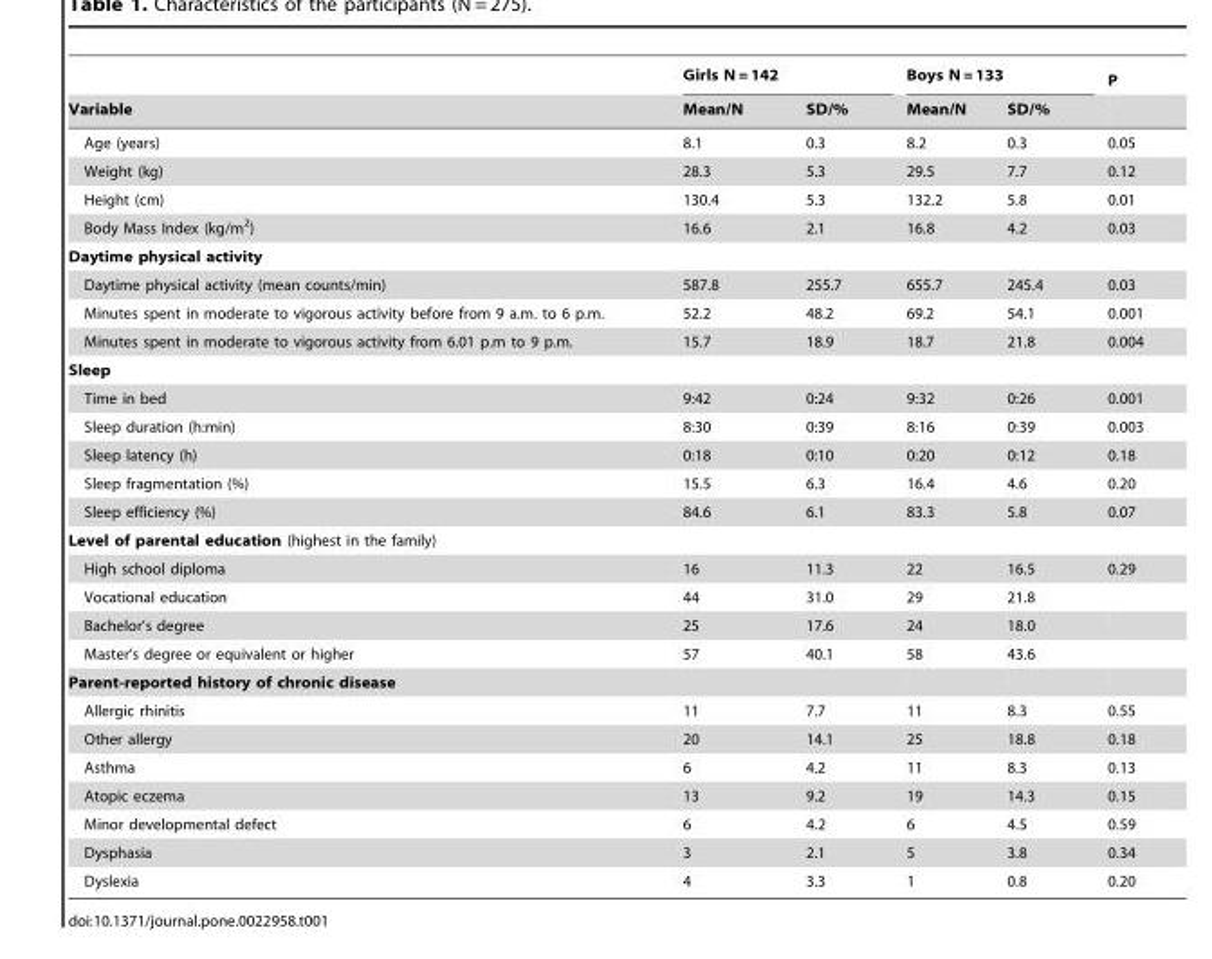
<table><thead><tr><td rowspan="2">Variable</td><td colspan="2">Girls N = 142</td><td colspan="2">Boys N = 133</td><td rowspan="2">P</td></tr><tr><td>Mean/N</td><td>SD/%</td><td>Mean/N</td><td>SD/%</td></tr></thead><tbody><tr><td>Age (years)</td><td>8.1</td><td>0.3</td><td>8.2</td><td>0.3</td><td>0.05</td></tr><tr><td>Weight (kg)</td><td>28.3</td><td>5.3</td><td>29.5</td><td>7.7</td><td>0.12</td></tr><tr><td>Height (cm)</td><td>130.4</td><td>5.3</td><td>132.2</td><td>5.8</td><td>0.01</td></tr><tr><td>Body Mass Index (kg/m<sup>2</sup>)</td><td>16.6</td><td>2.1</td><td>16.8</td><td>4.2</td><td>0.03</td></tr><tr><td colspan="6">Daytime physical activity</td></tr><tr><td>Daytime physical activity (mean counts/min)</td><td>587.8</td><td>255.7</td><td>655.7</td><td>245.4</td><td>0.03</td></tr><tr><td>Minutes spent in moderate to vigorous activity before from 9 a.m. to 6 p.m.</td><td>52.2</td><td>48.2</td><td>69.2</td><td>54.1</td><td>0.001</td></tr><tr><td>Minutes spent in moderate to vigorous activity from 6.01 p.m to 9 p.m.</td><td>15.7</td><td>18.9</td><td>18.7</td><td>21.8</td><td>0.004</td></tr><tr><td colspan="6">Sleep</td></tr><tr><td>Time in bed</td><td>9:42</td><td>0:24</td><td>9:32</td><td>0:26</td><td>0.001</td></tr><tr><td>Sleep duration (h:min)</td><td>8:30</td><td>0:39</td><td>8:16</td><td>0:39</td><td>0.003</td></tr><tr><td>Sleep latency (h)</td><td>0:18</td><td>0:10</td><td>0:20</td><td>0:12</td><td>0.18</td></tr><tr><td>Sleep fragmentation (%)</td><td>15.5</td><td>6.3</td><td>16.4</td><td>4.6</td><td>0.20</td></tr><tr><td>Sleep efficiency (%)</td><td>84.6</td><td>6.1</td><td>83.3</td><td>5.8</td><td>0.07</td></tr><tr><td colspan="6">Level of parental education (highest in the family)</td></tr><tr><td>High school diploma</td><td>16</td><td>11.3</td><td>22</td><td>16.5</td><td>0.29</td></tr><tr><td>Vocational education</td><td>44</td><td>31.0</td><td>29</td><td>21.8</td><td></td></tr><tr><td>Bachelor’s degree</td><td>25</td><td>17.6</td><td>24</td><td>18.0</td><td></td></tr><tr><td>Master’s degree or equivalent or higher</td><td>57</td><td>40.1</td><td>58</td><td>43.6</td><td></td></tr><tr><td colspan="6">Parent-reported history of chronic disease</td></tr><tr><td>Allergic rhinitis</td><td>11</td><td>7.7</td><td>11</td><td>8.3</td><td>0.55</td></tr><tr><td>Other allergy</td><td>20</td><td>14.1</td><td>25</td><td>18.8</td><td>0.18</td></tr><tr><td>Asthma</td><td>6</td><td>4.2</td><td>11</td><td>8.3</td><td>0.13</td></tr><tr><td>Atopic eczema</td><td>13</td><td>9.2</td><td>19</td><td>14.3</td><td>0.15</td></tr><tr><td>Minor developmental defect</td><td>6</td><td>4.2</td><td>6</td><td>4.5</td><td>0.59</td></tr><tr><td>Dysphasia</td><td>3</td><td>2.1</td><td>5</td><td>3.8</td><td>0.34</td></tr><tr><td>Dyslexia</td><td>4</td><td>3.3</td><td>1</td><td>0.8</td><td>0.20</td></tr></tbody></table>